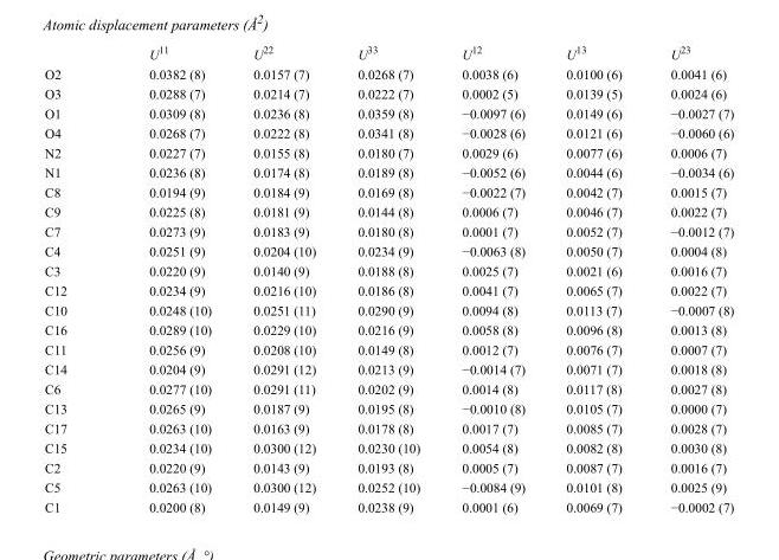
<table><thead><tr><td></td><td>U<sup>11</sup></td><td>U<sup>22</sup></td><td>U<sup>33</sup></td><td>U<sup>12</sup></td><td>U<sup>13</sup></td><td>U<sup>23</sup></td></tr></thead><tbody><tr><td>O2</td><td>0.0382 (8)</td><td>0.0157 (7)</td><td>0.0268 (7)</td><td>0.0038 (6)</td><td>0.0100 (6)</td><td>0.0041 (6)</td></tr><tr><td>O3</td><td>0.0288 (7)</td><td>0.0214 (7)</td><td>0.0222 (7)</td><td>0.0002 (5)</td><td>0.0139 (5)</td><td>0.0024 (6)</td></tr><tr><td>O1</td><td>0.0309 (8)</td><td>0.0236 (8)</td><td>0.0359 (8)</td><td>−0.0097 (6)</td><td>0.0149 (6)</td><td>−0.0027 (7)</td></tr><tr><td>O4</td><td>0.0268 (7)</td><td>0.0222 (8)</td><td>0.0341 (8)</td><td>−0.0028 (6)</td><td>0.0121 (6)</td><td>−0.0060 (6)</td></tr><tr><td>N2</td><td>0.0227 (7)</td><td>0.0155 (8)</td><td>0.0180 (7)</td><td>0.0029 (6)</td><td>0.0077 (6)</td><td>0.0006 (7)</td></tr><tr><td>N1</td><td>0.0236 (8)</td><td>0.0174 (8)</td><td>0.0189 (8)</td><td>−0.0052 (6)</td><td>0.0044 (6)</td><td>−0.0034 (6)</td></tr><tr><td>C8</td><td>0.0194 (9)</td><td>0.0184 (9)</td><td>0.0169 (8)</td><td>−0.0022 (7)</td><td>0.0042 (7)</td><td>0.0015 (7)</td></tr><tr><td>C9</td><td>0.0225 (8)</td><td>0.0181 (9)</td><td>0.0144 (8)</td><td>0.0006 (7)</td><td>0.0046 (7)</td><td>0.0022 (7)</td></tr><tr><td>C7</td><td>0.0273 (9)</td><td>0.0183 (9)</td><td>0.0180 (8)</td><td>0.0001 (7)</td><td>0.0052 (7)</td><td>−0.0012 (7)</td></tr><tr><td>C4</td><td>0.0251 (9)</td><td>0.0204 (10)</td><td>0.0234 (9)</td><td>−0.0063 (8)</td><td>0.0050 (7)</td><td>0.0004 (8)</td></tr><tr><td>C3</td><td>0.0220 (9)</td><td>0.0140 (9)</td><td>0.0188 (8)</td><td>0.0025 (7)</td><td>0.0021 (6)</td><td>0.0016 (7)</td></tr><tr><td>C12</td><td>0.0234 (9)</td><td>0.0216 (10)</td><td>0.0186 (8)</td><td>0.0041 (7)</td><td>0.0065 (7)</td><td>0.0022 (7)</td></tr><tr><td>C10</td><td>0.0248 (10)</td><td>0.0251 (11)</td><td>0.0290 (9)</td><td>0.0094 (8)</td><td>0.0113 (7)</td><td>−0.0007 (8)</td></tr><tr><td>C16</td><td>0.0289 (10)</td><td>0.0229 (10)</td><td>0.0216 (9)</td><td>0.0058 (8)</td><td>0.0096 (8)</td><td>0.0013 (8)</td></tr><tr><td>C11</td><td>0.0256 (9)</td><td>0.0208 (10)</td><td>0.0149 (8)</td><td>0.0012 (7)</td><td>0.0076 (7)</td><td>0.0007 (7)</td></tr><tr><td>C14</td><td>0.0204 (9)</td><td>0.0291 (12)</td><td>0.0213 (9)</td><td>−0.0014 (7)</td><td>0.0071 (7)</td><td>0.0018 (8)</td></tr><tr><td>C6</td><td>0.0277 (10)</td><td>0.0291 (11)</td><td>0.0202 (9)</td><td>0.0014 (8)</td><td>0.0117 (8)</td><td>0.0027 (8)</td></tr><tr><td>C13</td><td>0.0265 (9)</td><td>0.0187 (9)</td><td>0.0195 (8)</td><td>−0.0010 (8)</td><td>0.0105 (7)</td><td>0.0000 (7)</td></tr><tr><td>C17</td><td>0.0263 (10)</td><td>0.0163 (9)</td><td>0.0178 (8)</td><td>0.0017 (7)</td><td>0.0085 (7)</td><td>0.0028 (7)</td></tr><tr><td>C15</td><td>0.0234 (10)</td><td>0.0300 (12)</td><td>0.0230 (10)</td><td>0.0054 (8)</td><td>0.0082 (8)</td><td>0.0030 (8)</td></tr><tr><td>C2</td><td>0.0220 (9)</td><td>0.0143 (9)</td><td>0.0193 (8)</td><td>0.0005 (7)</td><td>0.0087 (7)</td><td>0.0016 (7)</td></tr><tr><td>C5</td><td>0.0263 (10)</td><td>0.0300 (12)</td><td>0.0252 (10)</td><td>−0.0084 (9)</td><td>0.0101 (8)</td><td>0.0025 (9)</td></tr><tr><td>C1</td><td>0.0200 (8)</td><td>0.0149 (9)</td><td>0.0238 (9)</td><td>0.0001 (6)</td><td>0.0069 (7)</td><td>−0.0002 (7)</td></tr></tbody></table>